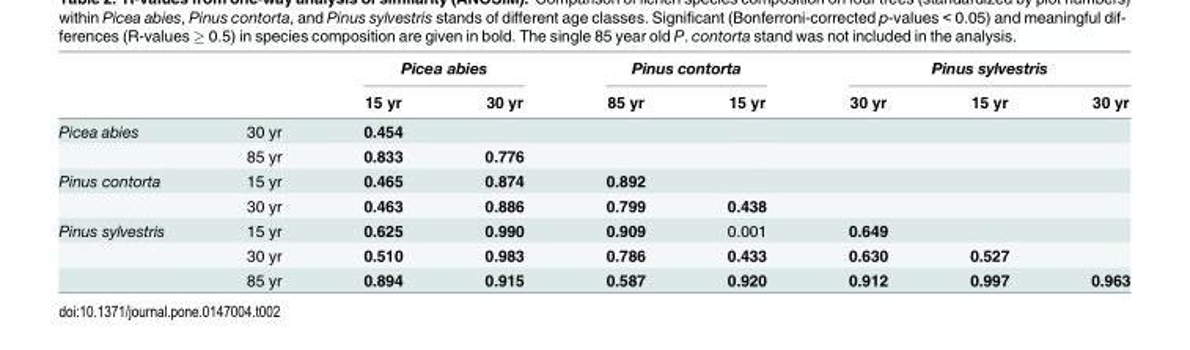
<table><thead><tr><td rowspan="2"></td><td rowspan="2"></td><td colspan="2">Picea abies</td><td colspan="2">Pinus contorta</td><td colspan="3">Pinus sylvestris</td></tr><tr><td>15 yr</td><td>30 yr</td><td>85 yr</td><td>15 yr</td><td>30 yr</td><td>15 yr</td><td>30 yr</td></tr></thead><tbody><tr><td rowspan="2">Picea abies</td><td>30 yr</td><td>0.454</td><td></td><td></td><td></td><td></td><td></td><td></td></tr><tr><td>85 yr</td><td>0.833</td><td>0.776</td><td></td><td></td><td></td><td></td><td></td></tr><tr><td rowspan="2">Pinus contorta</td><td>15 yr</td><td>0.465</td><td>0.874</td><td>0.892</td><td></td><td></td><td></td><td></td></tr><tr><td>30 yr</td><td>0.463</td><td>0.886</td><td>0.799</td><td>0.438</td><td></td><td></td><td></td></tr><tr><td rowspan="3">Pinus sylvestris</td><td>15 yr</td><td>0.625</td><td>0.990</td><td>0.909</td><td>0.001</td><td>0.649</td><td></td><td></td></tr><tr><td>30 yr</td><td>0.510</td><td>0.983</td><td>0.786</td><td>0.433</td><td>0.630</td><td>0.527</td><td></td></tr><tr><td>85 yr</td><td>0.894</td><td>0.915</td><td>0.587</td><td>0.920</td><td>0.912</td><td>0.997</td><td>0.963</td></tr></tbody></table>